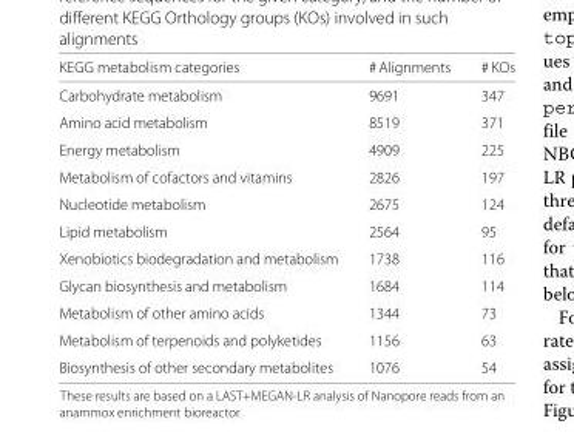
<table><thead><tr><td>KEGG metabolism categories</td><td># Alignments</td><td># KOs</td></tr></thead><tbody><tr><td>Carbohydrate metabolism</td><td>9691</td><td>347</td></tr><tr><td>Amino acid metabolism</td><td>8519</td><td>371</td></tr><tr><td>Energy metabolism</td><td>4909</td><td>225</td></tr><tr><td>Metabolism of cofactors and vitamins</td><td>2826</td><td>197</td></tr><tr><td>Nucleotide metabolism</td><td>2675</td><td>124</td></tr><tr><td>Lipid metabolism</td><td>2564</td><td>95</td></tr><tr><td>Xenobiotics biodegradation and metabolism</td><td>1738</td><td>116</td></tr><tr><td>Glycan biosynthesis and metabolism</td><td>1684</td><td>114</td></tr><tr><td>Metabolism of other amino acids</td><td>1344</td><td>73</td></tr><tr><td>Metabolism of terpenoids and polyketides</td><td>1156</td><td>63</td></tr><tr><td>Biosynthesis of other secondary metabolites</td><td>1076</td><td>54</td></tr></tbody></table>